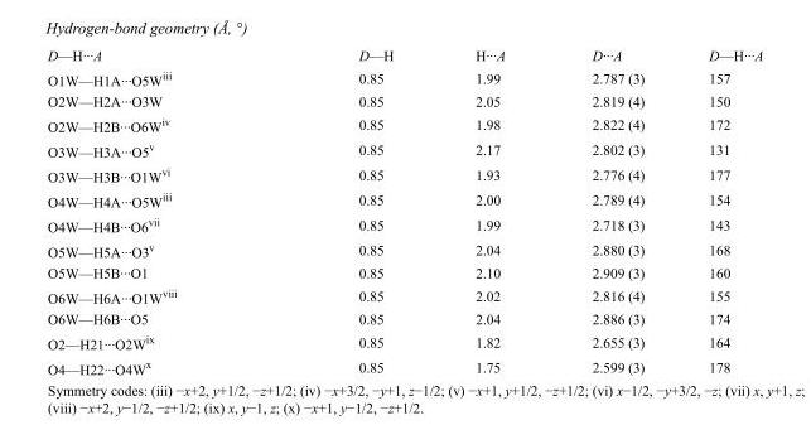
<table><tbody><tr><td>D—H···A</td><td>D—H</td><td>H···A</td><td>D···A</td><td>D—H···A</td></tr><tr><td>O1W—H1A···O5W<sup>iii</sup></td><td>0.85</td><td>1.99</td><td>2.787 (3)</td><td>157</td></tr><tr><td>O2W—H2A···O3W</td><td>0.85</td><td>2.05</td><td>2.819 (4)</td><td>150</td></tr><tr><td>O2W—H2B···O6W<sup>iv</sup></td><td>0.85</td><td>1.98</td><td>2.822 (4)</td><td>172</td></tr><tr><td>O3W—H3A···O5<sup>v</sup></td><td>0.85</td><td>2.17</td><td>2.802 (3)</td><td>131</td></tr><tr><td>O3W—H3B···O1W<sup>vi</sup></td><td>0.85</td><td>1.93</td><td>2.776 (4)</td><td>177</td></tr><tr><td>O4W—H4A···O5W<sup>iii</sup></td><td>0.85</td><td>2.00</td><td>2.789 (4)</td><td>154</td></tr><tr><td>O4W—H4B···O6<sup>vii</sup></td><td>0.85</td><td>1.99</td><td>2.718 (3)</td><td>143</td></tr><tr><td>O5W—H5A···O3<sup>v</sup></td><td>0.85</td><td>2.04</td><td>2.880 (3)</td><td>168</td></tr><tr><td>O5W—H5B···O1</td><td>0.85</td><td>2.10</td><td>2.909 (3)</td><td>160</td></tr><tr><td>O6W—H6A···O1W<sup>viii</sup></td><td>0.85</td><td>2.02</td><td>2.816 (4)</td><td>155</td></tr><tr><td>O6W—H6B···O5</td><td>0.85</td><td>2.04</td><td>2.886 (3)</td><td>174</td></tr><tr><td>O2—H21···O2W<sup>ix</sup></td><td>0.85</td><td>1.82</td><td>2.655 (3)</td><td>164</td></tr><tr><td>O4—H22···O4W<sup>x</sup></td><td>0.85</td><td>1.75</td><td>2.599 (3)</td><td>178</td></tr></tbody></table>